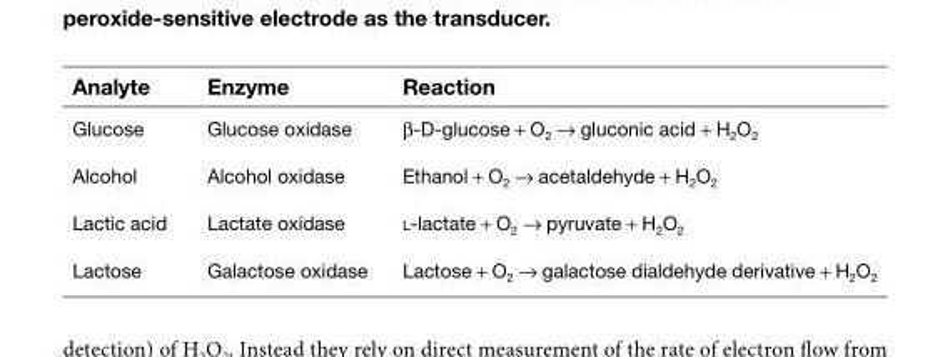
<table><thead><tr><td>Analyte</td><td>Enzyme</td><td>Reaction</td></tr></thead><tbody><tr><td>Glucose</td><td>Glucose oxidase</td><td>β-D-glucose + O<sub>2</sub> → gluconic acid + H<sub>2</sub>O<sub>2</sub></td></tr><tr><td>Alcohol</td><td>Alcohol oxidase</td><td>Ethanol + O<sub>2</sub> → acetaldehyde + H<sub>2</sub>O<sub>2</sub></td></tr><tr><td>Lactic acid</td><td>Lactate oxidase</td><td>l-lactate + O<sub>2</sub> → pyruvate + H<sub>2</sub>O<sub>2</sub></td></tr><tr><td>Lactose</td><td>Galactose oxidase</td><td>Lactose + O<sub>2</sub> → galactose dialdehyde derivative + H<sub>2</sub>O<sub>2</sub></td></tr></tbody></table>